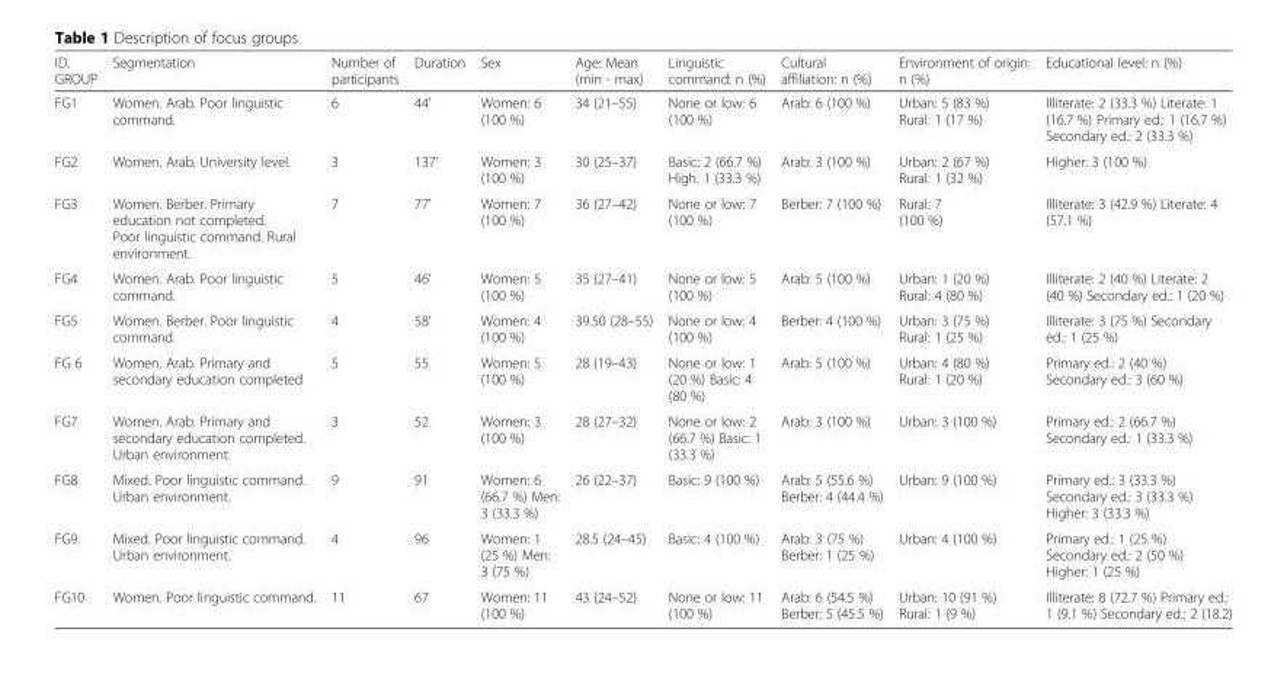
<table><thead><tr><td>ID. GROUP</td><td>Segmentation</td><td>Number of participants</td><td>Duration</td><td>Sex</td><td>Age: Mean (min - max)</td><td>Linguistic command: n (%)</td><td>Cultural affiliation: n (%)</td><td>Environment of origin: n (%)</td><td>Educational level: n (%)</td></tr></thead><tbody><tr><td>FG1</td><td>Women. Arab. Poor linguistic command.</td><td>6</td><td>44&#x27;</td><td>Women: 6 (100 %)</td><td>34 (21–55)</td><td>None or low: 6 (100 %)</td><td>Arab: 6 (100 %)</td><td>Urban: 5 (83 %) Rural: 1 (17 %)</td><td>Illiterate: 2 (33.3 %) Literate: 1 (16.7 %) Primary ed.: 1 (16.7 %) Secondary ed.: 2 (33.3 %)</td></tr><tr><td>FG2</td><td>Women. Arab. University level.</td><td>3</td><td>137&#x27;</td><td>Women: 3 (100 %)</td><td>30 (25–37)</td><td>Basic: 2 (66.7 %) High: 1 (33.3 %)</td><td>Arab: 3 (100 %)</td><td>Urban: 2 (67 %) Rural: 1 (32 %)</td><td>Higher: 3 (100 %)</td></tr><tr><td>FG3</td><td>Women. Berber. Primary education not completed. Poor linguistic command. Rural environment.</td><td>7</td><td>77&#x27;</td><td>Women: 7 (100 %)</td><td>36 (27–42)</td><td>None or low: 7 (100 %)</td><td>Berber: 7 (100 %)</td><td>Rural: 7 (100 %)</td><td>Illiterate: 3 (42.9 %) Literate: 4 (57.1 %)</td></tr><tr><td>FG4</td><td>Women. Arab. Poor linguistic command.</td><td>5</td><td>46&#x27;</td><td>Women: 5 (100 %)</td><td>35 (27–41)</td><td>None or low: 5 (100 %)</td><td>Arab: 5 (100 %)</td><td>Urban: 1 (20 %) Rural: 4 (80 %)</td><td>Illiterate: 2 (40 %) Literate: 2 (40 %) Secondary ed.: 1 (20 %)</td></tr><tr><td>FG5</td><td>Women. Berber. Poor linguistic command.</td><td>4</td><td>58&#x27;</td><td>Women: 4 (100 %)</td><td>39.50 (28–55)</td><td>None or low: 4 (100 %)</td><td>Berber: 4 (100 %)</td><td>Urban: 3 (75 %) Rural: 1 (25 %)</td><td>Illiterate: 3 (75 %) Secondary ed.: 1 (25 %)</td></tr><tr><td>FG 6</td><td>Women. Arab. Primary and secondary education completed</td><td>5</td><td>55</td><td>Women: 5 (100 %)</td><td>28 (19–43)</td><td>None or low: 1 (20 %) Basic: 4 (80 %)</td><td>Arab: 5 (100 %)</td><td>Urban: 4 (80 %) Rural: 1 (20 %)</td><td>Primary ed.: 2 (40 %) Secondary ed.: 3 (60 %)</td></tr><tr><td>FG7</td><td>Women. Arab. Primary and secondary education completed. Urban environment.</td><td>3</td><td>52</td><td>Women: 3 (100 %)</td><td>28 (27–32)</td><td>None or low: 2 (66.7 %) Basic: 1 (33.3 %)</td><td>Arab: 3 (100 %)</td><td>Urban: 3 (100 %)</td><td>Primary ed.: 2 (66.7 %) Secondary ed.: 1 (33.3 %)</td></tr><tr><td>FG8</td><td>Mixed. Poor linguistic command. Urban environment.</td><td>9</td><td>91</td><td>Women: 6 (66.7 %) Men: 3 (33.3 %)</td><td>26 (22–37)</td><td>Basic: 9 (100 %)</td><td>Arab: 5 (55.6 %) Berber: 4 (44.4 %)</td><td>Urban: 9 (100 %)</td><td>Primary ed.: 3 (33.3 %) Secondary ed.: 3 (33.3 %) Higher: 3 (33.3 %)</td></tr><tr><td>FG9</td><td>Mixed. Poor linguistic command. Urban environment.</td><td>4</td><td>96</td><td>Women: 1 (25 %) Men: 3 (75 %)</td><td>28.5 (24–45)</td><td>Basic: 4 (100 %)</td><td>Arab: 3 (75 %) Berber: 1 (25 %)</td><td>Urban: 4 (100 %)</td><td>Primary ed.: 1 (25 %) Secondary ed.: 2 (50 %) Higher: 1 (25 %)</td></tr><tr><td>FG10</td><td>Women. Poor linguistic command.</td><td>11</td><td>67</td><td>Women: 11 (100 %)</td><td>43 (24–52)</td><td>None or low: 11 (100 %)</td><td>Arab: 6 (54.5 %) Berber: 5 (45.5 %)</td><td>Urban: 10 (91 %) Rural: 1 (9 %)</td><td>Illiterate: 8 (72.7 %) Primary ed.: 1 (9.1 %) Secondary ed.: 2 (18.2)</td></tr></tbody></table>